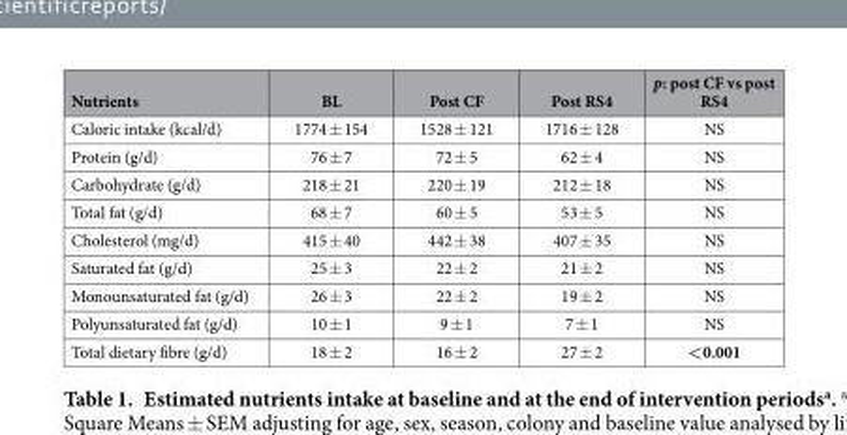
<table><thead><tr><td>Nutrients</td><td>BL</td><td>Post CF</td><td>Post RS4</td><td>p: post CF vs post RS4</td></tr></thead><tbody><tr><td>Caloric intake (kcal/d)</td><td>1774 ± 154</td><td>1528 ± 121</td><td>1716 ± 128</td><td>NS</td></tr><tr><td>Protein (g/d)</td><td>76 ± 7</td><td>72 ± 5</td><td>62 ± 4</td><td>NS</td></tr><tr><td>Carbohydrate (g/d)</td><td>218 ± 21</td><td>220 ± 19</td><td>212 ± 18</td><td>NS</td></tr><tr><td>Total fat (g/d)</td><td>68 ± 7</td><td>60 ± 5</td><td>53 ± 5</td><td>NS</td></tr><tr><td>Cholesterol (mg/d)</td><td>415 ± 40</td><td>442 ± 38</td><td>407 ± 35</td><td>NS</td></tr><tr><td>Saturated fat (g/d)</td><td>25 ± 3</td><td>22 ± 2</td><td>21 ± 2</td><td>NS</td></tr><tr><td>Monounsaturated fat (g/d)</td><td>26 ± 3</td><td>22 ± 2</td><td>19 ± 2</td><td>NS</td></tr><tr><td>Polyunsaturated fat (g/d)</td><td>10 ± 1</td><td>9 ± 1</td><td>7 ± 1</td><td>NS</td></tr><tr><td>Total dietary fibre (g/d)</td><td>18 ± 2</td><td>16 ± 2</td><td>27 ± 2</td><td>&lt;0.001</td></tr></tbody></table>